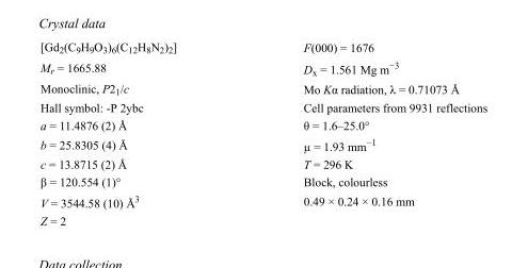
<table><tbody><tr><td>[Gd<sub>2</sub>(C<sub>9</sub>H<sub>9</sub>O<sub>3</sub>)<sub>6</sub>(C<sub>12</sub>H<sub>8</sub>N<sub>2</sub>)<sub>2</sub>]</td><td>F(000) = 1676</td></tr><tr><td>M<sub>r</sub> = 1665.88</td><td>D<sub>x</sub> = 1.561 Mg m<sup>−3</sup></td></tr><tr><td>Monoclinic, P2<sub>1</sub>/c</td><td>Mo Kα radiation, λ = 0.71073 Å</td></tr><tr><td>Hall symbol: -P 2ybc</td><td>Cell parameters from 9931 reflections</td></tr><tr><td>a = 11.4876 (2) Å</td><td>θ = 1.6–25.0°</td></tr><tr><td>b = 25.8305 (4) Å</td><td>µ = 1.93 mm<sup>−1</sup></td></tr><tr><td>c = 13.8715 (2) Å</td><td>T = 296 K</td></tr><tr><td>β = 120.554 (1)°</td><td>Block, colourless</td></tr><tr><td>V = 3544.58 (10) Å<sup>3</sup></td><td>0.49 × 0.24 × 0.16 mm</td></tr><tr><td>Z = 2</td><td></td></tr></tbody></table>